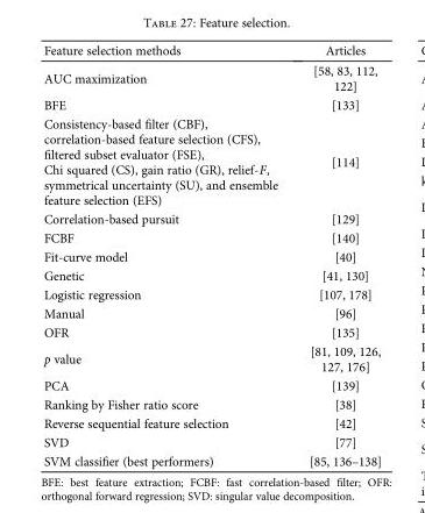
<table><thead><tr><td>Feature selection methods</td><td>Articles</td></tr></thead><tbody><tr><td>AUC maximization</td><td>[58, 83, 112, 122]</td></tr><tr><td>BFE</td><td>[133]</td></tr><tr><td>Consistency-based filter (CBF), correlation-based feature selection (CFS), filtered subset evaluator (FSE), Chi squared (CS), gain ratio (GR), relief-F, symmetrical uncertainty (SU), and ensemble feature selection (EFS)</td><td>[114]</td></tr><tr><td>Correlation-based pursuit</td><td>[129]</td></tr><tr><td>FCBF</td><td>[140]</td></tr><tr><td>Fit-curve model</td><td>[40]</td></tr><tr><td>Genetic</td><td>[41, 130]</td></tr><tr><td>Logistic regression</td><td>[107, 178]</td></tr><tr><td>Manual</td><td>[96]</td></tr><tr><td>OFR</td><td>[135]</td></tr><tr><td>p value</td><td>[81, 109, 126, 127, 176]</td></tr><tr><td>PCA</td><td>[139]</td></tr><tr><td>Ranking by Fisher ratio score</td><td>[38]</td></tr><tr><td>Reverse sequential feature selection</td><td>[42]</td></tr><tr><td>SVD</td><td>[77]</td></tr><tr><td>SVM classifier (best performers)</td><td>[85, 136–138]</td></tr></tbody></table>